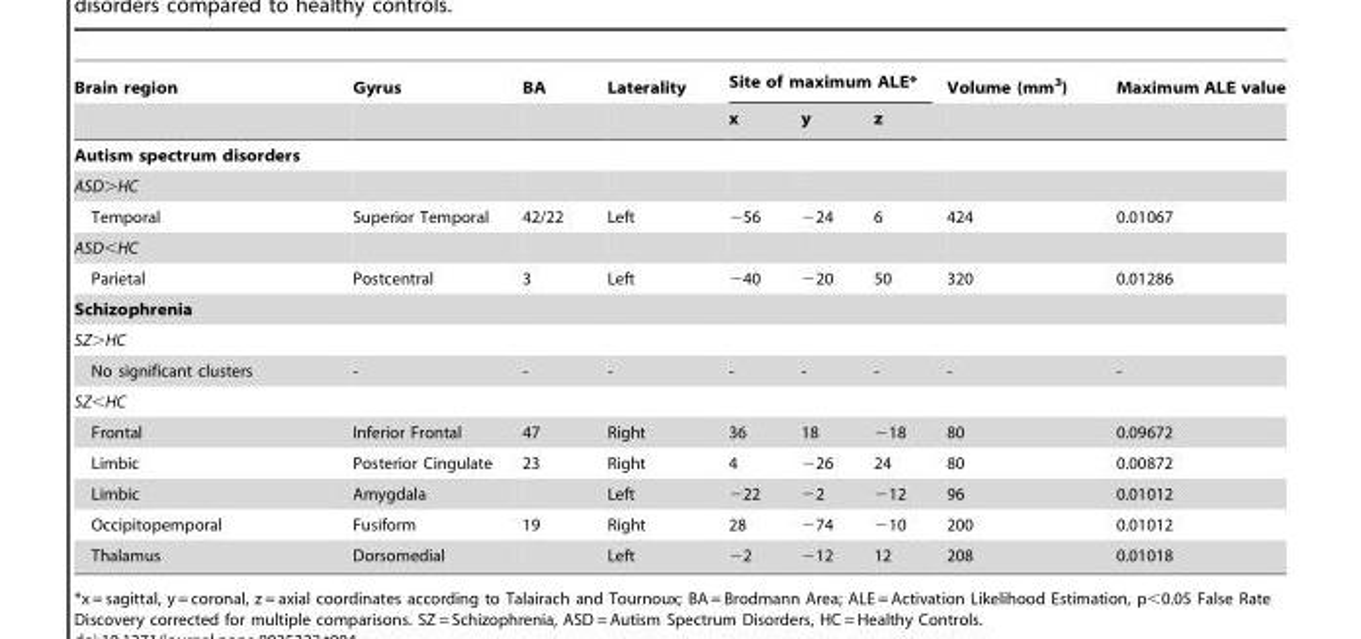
<table><thead><tr><td rowspan="2">Brain region</td><td rowspan="2">Gyrus</td><td rowspan="2">BA</td><td rowspan="2">Laterality</td><td colspan="3">Site of maximum ALE*</td><td rowspan="2">Volume (mm<sup>3</sup>)</td><td rowspan="2">Maximum ALE value</td></tr><tr><td>x</td><td>y</td><td>z</td></tr></thead><tbody><tr><td colspan="9">Autism spectrum disorders</td></tr><tr><td colspan="9">ASD&gt;HC</td></tr><tr><td>Temporal</td><td>Superior Temporal</td><td>42/22</td><td>Left</td><td>−56</td><td>−24</td><td>6</td><td>424</td><td>0.01067</td></tr><tr><td colspan="9">ASD&lt;HC</td></tr><tr><td>Parietal</td><td>Postcentral</td><td>3</td><td>Left</td><td>−40</td><td>−20</td><td>50</td><td>320</td><td>0.01286</td></tr><tr><td colspan="9">Schizophrenia</td></tr><tr><td colspan="9">SZ&gt;HC</td></tr><tr><td>No significant clusters</td><td>-</td><td>-</td><td>-</td><td>-</td><td>-</td><td>-</td><td>-</td><td>-</td></tr><tr><td colspan="9">SZ&lt;HC</td></tr><tr><td>Frontal</td><td>Inferior Frontal</td><td>47</td><td>Right</td><td>36</td><td>18</td><td>−18</td><td>80</td><td>0.09672</td></tr><tr><td>Limbic</td><td>Posterior Cingulate</td><td>23</td><td>Right</td><td>4</td><td>−26</td><td>24</td><td>80</td><td>0.00872</td></tr><tr><td>Limbic</td><td>Amygdala</td><td></td><td>Left</td><td>−22</td><td>−2</td><td>−12</td><td>96</td><td>0.01012</td></tr><tr><td>Occipitopemporal</td><td>Fusiform</td><td>19</td><td>Right</td><td>28</td><td>−74</td><td>−10</td><td>200</td><td>0.01012</td></tr><tr><td>Thalamus</td><td>Dorsomedial</td><td></td><td>Left</td><td>−2</td><td>−12</td><td>12</td><td>208</td><td>0.01018</td></tr></tbody></table>